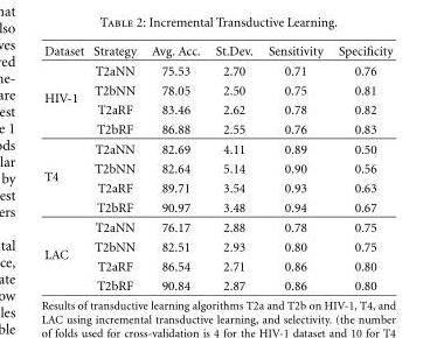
<table><thead><tr><td>Dataset</td><td>Strategy</td><td>Avg. Acc.</td><td>St.Dev.</td><td>Sensitivity</td><td>Specificity</td></tr></thead><tbody><tr><td rowspan="4">HIV-1</td><td>T2aNN</td><td>75.53</td><td>2.70</td><td>0.71</td><td>0.76</td></tr><tr><td>T2bNN</td><td>78.05</td><td>2.50</td><td>0.75</td><td>0.81</td></tr><tr><td>T2aRF</td><td>83.46</td><td>2.62</td><td>0.78</td><td>0.82</td></tr><tr><td>T2bRF</td><td>86.88</td><td>2.55</td><td>0.76</td><td>0.83</td></tr><tr><td rowspan="4">T4</td><td>T2aNN</td><td>82.69</td><td>4.11</td><td>0.89</td><td>0.50</td></tr><tr><td>T2bNN</td><td>82.64</td><td>5.14</td><td>0.90</td><td>0.56</td></tr><tr><td>T2aRF</td><td>89.71</td><td>3.54</td><td>0.93</td><td>0.63</td></tr><tr><td>T2bRF</td><td>90.97</td><td>3.48</td><td>0.94</td><td>0.67</td></tr><tr><td rowspan="4">LAC</td><td>T2aNN</td><td>76.17</td><td>2.88</td><td>0.78</td><td>0.75</td></tr><tr><td>T2bNN</td><td>82.51</td><td>2.93</td><td>0.80</td><td>0.75</td></tr><tr><td>T2aRF</td><td>86.54</td><td>2.71</td><td>0.86</td><td>0.80</td></tr><tr><td>T2bRF</td><td>90.84</td><td>2.87</td><td>0.86</td><td>0.80</td></tr></tbody></table>